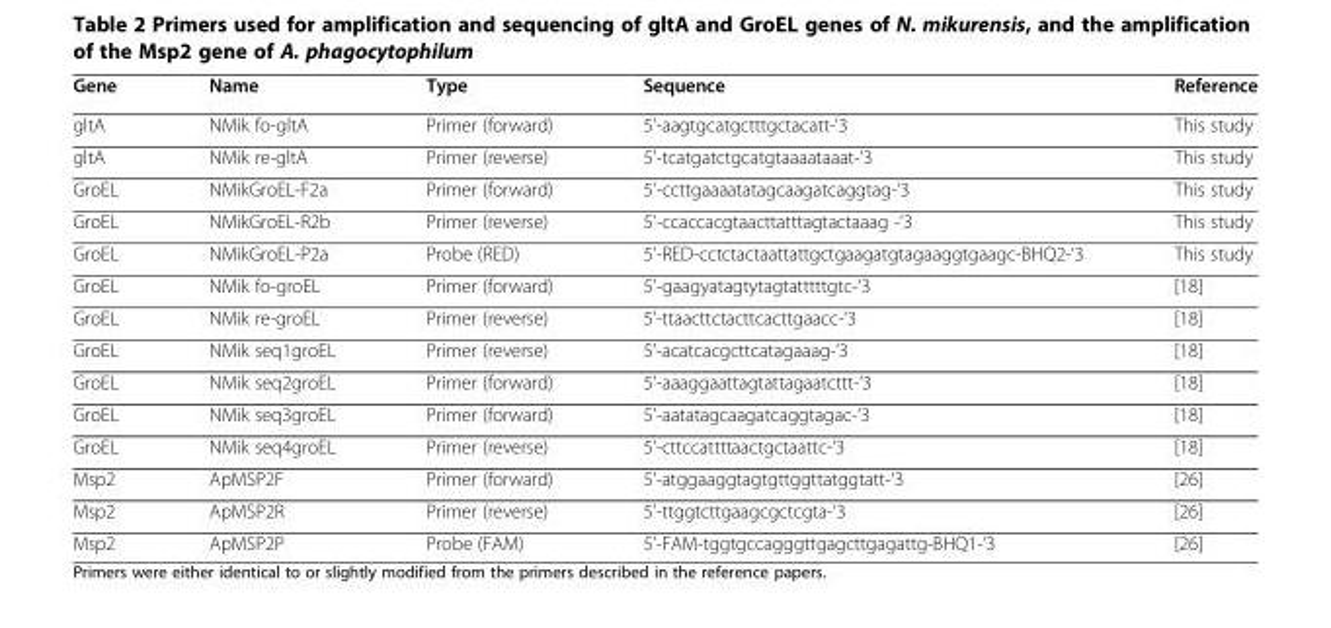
<table><thead><tr><td>Gene</td><td>Name</td><td>Type</td><td>Sequence</td><td>Reference</td></tr></thead><tbody><tr><td>gltA</td><td>NMik fo-gltA</td><td>Primer (forward)</td><td>5’-aagtgcatgctttgctacatt-‘3</td><td>This study</td></tr><tr><td>gltA</td><td>NMik re-gltA</td><td>Primer (reverse)</td><td>5’-tcatgatctgcatgtaaaataaat-‘3</td><td>This study</td></tr><tr><td>GroEL</td><td>NMikGroEL-F2a</td><td>Primer (forward)</td><td>5’-ccttgaaaatatagcaagatcaggtag-‘3</td><td>This study</td></tr><tr><td>GroEL</td><td>NMikGroEL-R2b</td><td>Primer (reverse)</td><td>5’-ccaccacgtaacttatttagtactaaag -‘3</td><td>This study</td></tr><tr><td>GroEL</td><td>NMikGroEL-P2a</td><td>Probe (RED)</td><td>5’-RED-cctctactaattattgctgaagatgtagaaggtgaagc-BHQ2-‘3</td><td>This study</td></tr><tr><td>GroEL</td><td>NMik fo-groEL</td><td>Primer (forward)</td><td>5’-gaagyatagtytagtatttttgtc-‘3</td><td>[18]</td></tr><tr><td>GroEL</td><td>NMik re-groEL</td><td>Primer (reverse)</td><td>5’-ttaacttctacttcacttgaacc-‘3</td><td>[18]</td></tr><tr><td>GroEL</td><td>NMik seq1groEL</td><td>Primer (reverse)</td><td>5’-acatcacgcttcatagaaag-‘3</td><td>[18]</td></tr><tr><td>GroEL</td><td>NMik seq2groEL</td><td>Primer (forward)</td><td>5’-aaaggaattagtattagaatcttt-‘3</td><td>[18]</td></tr><tr><td>GroEL</td><td>NMik seq3groEL</td><td>Primer (forward)</td><td>5’-aatatagcaagatcaggtagac-‘3</td><td>[18]</td></tr><tr><td>GroEL</td><td>NMik seq4groEL</td><td>Primer (reverse)</td><td>5’-cttccattttaactgctaattc-‘3</td><td>[18]</td></tr><tr><td>Msp2</td><td>ApMSP2F</td><td>Primer (forward)</td><td>5’-atggaaggtagtgttggttatggtatt-‘3</td><td>[26]</td></tr><tr><td>Msp2</td><td>ApMSP2R</td><td>Primer (reverse)</td><td>5’-ttggtcttgaagcgctcgta-‘3</td><td>[26]</td></tr><tr><td>Msp2</td><td>ApMSP2P</td><td>Probe (FAM)</td><td>5’-FAM-tggtgccagggttgagcttgagattg-BHQ1-‘3</td><td>[26]</td></tr></tbody></table>